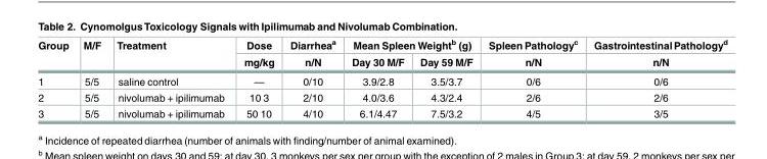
<table><thead><tr><td rowspan="2">Group</td><td rowspan="2">M/F</td><td rowspan="2">Treatment</td><td rowspan="2">Dose mg/kg</td><td rowspan="2">Diarrhea<sup>a</sup> n/N</td><td colspan="2">Mean Spleen Weight<sup>b</sup> (g)</td><td rowspan="2">Spleen Pathology<sup>c</sup> n/N</td><td rowspan="2">Gastrointestinal Pathology<sup>d</sup> n/N</td></tr><tr><td>Day 30 M/F</td><td>Day 59 M/F</td></tr></thead><tbody><tr><td>1</td><td>5/5</td><td>saline control</td><td>—</td><td>0/10</td><td>3.9/2.8</td><td>3.5/3.7</td><td>0/6</td><td>0/6</td></tr><tr><td>2</td><td>5/5</td><td>nivolumab + ipilimumab</td><td>10 3</td><td>2/10</td><td>4.0/3.6</td><td>4.3/2.4</td><td>2/6</td><td>2/6</td></tr><tr><td>3</td><td>5/5</td><td>nivolumab + ipilimumab</td><td>50 10</td><td>4/10</td><td>6.1/4.47</td><td>7.5/3.2</td><td>4/5</td><td>3/5</td></tr></tbody></table>